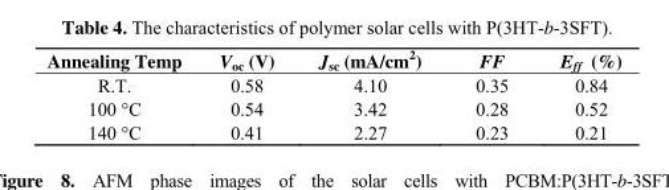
<table><thead><tr><td>Annealing Temp</td><td>V<sub>oc</sub> (V)</td><td>J<sub>sc</sub> (mA/cm<sup>2</sup>)</td><td>FF</td><td>E<sub>ff</sub> (%)</td></tr></thead><tbody><tr><td>R.T.</td><td>0.58</td><td>4.10</td><td>0.35</td><td>0.84</td></tr><tr><td>100 °C</td><td>0.54</td><td>3.42</td><td>0.28</td><td>0.52</td></tr><tr><td>140 °C</td><td>0.41</td><td>2.27</td><td>0.23</td><td>0.21</td></tr></tbody></table>